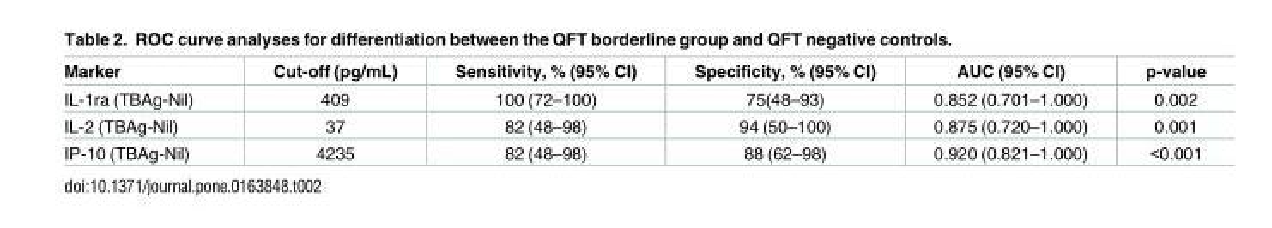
<table><thead><tr><td>Marker</td><td>Cut-off (pg/mL)</td><td>Sensitivity, % (95% CI)</td><td>Specificity, % (95% CI)</td><td>AUC (95% CI)</td><td>p-value</td></tr></thead><tbody><tr><td>IL-1ra (TBAg-Nil)</td><td>409</td><td>100 (72–100)</td><td>75(48–93)</td><td>0.852 (0.701–1.000)</td><td>0.002</td></tr><tr><td>IL-2 (TBAg-Nil)</td><td>37</td><td>82 (48–98)</td><td>94 (50–100)</td><td>0.875 (0.720–1.000)</td><td>0.001</td></tr><tr><td>IP-10 (TBAg-Nil)</td><td>4235</td><td>82 (48–98)</td><td>88 (62–98)</td><td>0.920 (0.821–1.000)</td><td>&lt;0.001</td></tr></tbody></table>